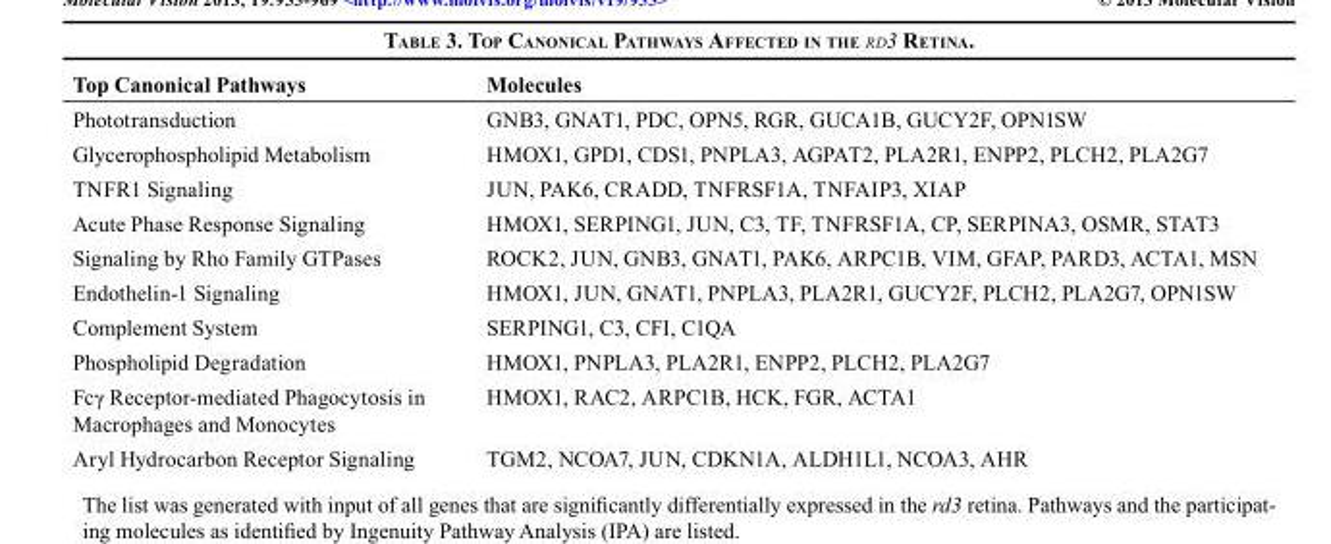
<table><thead><tr><td>Top Canonical Pathways</td><td>Molecules</td></tr></thead><tbody><tr><td>Phototransduction</td><td>GNB3, GNAT1, PDC, OPN5, RGR, GUCA1B, GUCY2F, OPN1SW</td></tr><tr><td>Glycerophospholipid Metabolism</td><td>HMOX1, GPD1, CDS1, PNPLA3, AGPAT2, PLA2R1, ENPP2, PLCH2, PLA2G7</td></tr><tr><td>TNFR1 Signaling</td><td>JUN, PAK6, CRADD, TNFRSF1A, TNFAIP3, XIAP</td></tr><tr><td>Acute Phase Response Signaling</td><td>HMOX1, SERPING1, JUN, C3, TF, TNFRSF1A, CP, SERPINA3, OSMR, STAT3</td></tr><tr><td>Signaling by Rho Family GTPases</td><td>ROCK2, JUN, GNB3, GNAT1, PAK6, ARPC1B, VIM, GFAP, PARD3, ACTA1, MSN</td></tr><tr><td>Endothelin-1 Signaling</td><td>HMOX1, JUN, GNAT1, PNPLA3, PLA2R1, GUCY2F, PLCH2, PLA2G7, OPN1SW</td></tr><tr><td>Complement System</td><td>SERPING1, C3, CFI, C1QA</td></tr><tr><td>Phospholipid Degradation</td><td>HMOX1, PNPLA3, PLA2R1, ENPP2, PLCH2, PLA2G7</td></tr><tr><td>Fcγ Receptor-mediated Phagocytosis in Macrophages and Monocytes</td><td>HMOX1, RAC2, ARPC1B, HCK, FGR, ACTA1</td></tr><tr><td>Aryl Hydrocarbon Receptor Signaling</td><td>TGM2, NCOA7, JUN, CDKN1A, ALDH1L1, NCOA3, AHR</td></tr></tbody></table>